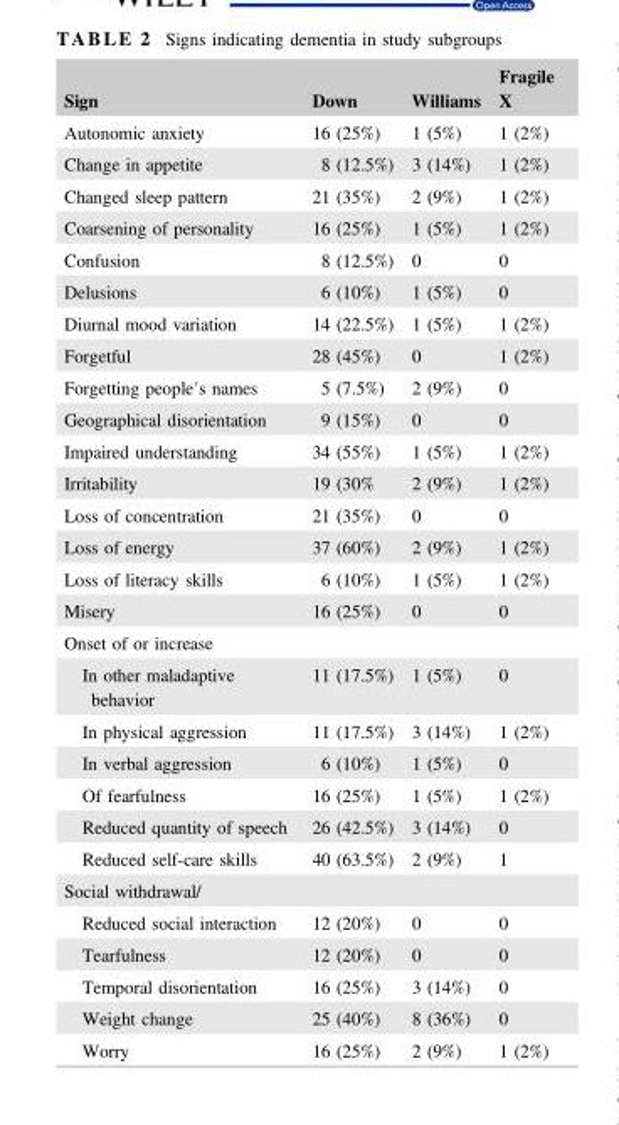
<table><thead><tr><td>Sign</td><td>Down</td><td>Williams</td><td>Fragile X</td></tr></thead><tbody><tr><td>Autonomic anxiety</td><td>16 (25%)</td><td>1 (5%)</td><td>1 (2%)</td></tr><tr><td>Change in appetite</td><td>8 (12.5%)</td><td>3 (14%)</td><td>1 (2%)</td></tr><tr><td>Changed sleep pattern</td><td>21 (35%)</td><td>2 (9%)</td><td>1 (2%)</td></tr><tr><td>Coarsening of personality</td><td>16 (25%)</td><td>1 (5%)</td><td>1 (2%)</td></tr><tr><td>Confusion</td><td>8 (12.5%)</td><td>0</td><td>0</td></tr><tr><td>Delusions</td><td>6 (10%)</td><td>1 (5%)</td><td>0</td></tr><tr><td>Diurnal mood variation</td><td>14 (22.5%)</td><td>1 (5%)</td><td>1 (2%)</td></tr><tr><td>Forgetful</td><td>28 (45%)</td><td>0</td><td>1 (2%)</td></tr><tr><td>Forgetting people′s names</td><td>5 (7.5%)</td><td>2 (9%)</td><td>0</td></tr><tr><td>Geographical disorientation</td><td>9 (15%)</td><td>0</td><td>0</td></tr><tr><td>Impaired understanding</td><td>34 (55%)</td><td>1 (5%)</td><td>1 (2%)</td></tr><tr><td>Irritability</td><td>19 (30%</td><td>2 (9%)</td><td>1 (2%)</td></tr><tr><td>Loss of concentration</td><td>21 (35%)</td><td>0</td><td>0</td></tr><tr><td>Loss of energy</td><td>37 (60%)</td><td>2 (9%)</td><td>1 (2%)</td></tr><tr><td>Loss of literacy skills</td><td>6 (10%)</td><td>1 (5%)</td><td>1 (2%)</td></tr><tr><td>Misery</td><td>16 (25%)</td><td>0</td><td>0</td></tr><tr><td colspan="4">Onset of or increase</td></tr><tr><td>In other maladaptive behavior</td><td>11 (17.5%)</td><td>1 (5%)</td><td>0</td></tr><tr><td>In physical aggression</td><td>11 (17.5%)</td><td>3 (14%)</td><td>1 (2%)</td></tr><tr><td>In verbal aggression</td><td>6 (10%)</td><td>1 (5%)</td><td>0</td></tr><tr><td>Of fearfulness</td><td>16 (25%)</td><td>1 (5%)</td><td>1 (2%)</td></tr><tr><td>Reduced quantity of speech</td><td>26 (42.5%)</td><td>3 (14%)</td><td>0</td></tr><tr><td>Reduced self‐care skills</td><td>40 (63.5%)</td><td>2 (9%)</td><td>1</td></tr><tr><td colspan="4">Social withdrawal/</td></tr><tr><td>Reduced social interaction</td><td>12 (20%)</td><td>0</td><td>0</td></tr><tr><td>Tearfulness</td><td>12 (20%)</td><td>0</td><td>0</td></tr><tr><td>Temporal disorientation</td><td>16 (25%)</td><td>3 (14%)</td><td>0</td></tr><tr><td>Weight change</td><td>25 (40%)</td><td>8 (36%)</td><td>0</td></tr><tr><td>Worry</td><td>16 (25%)</td><td>2 (9%)</td><td>1 (2%)</td></tr></tbody></table>